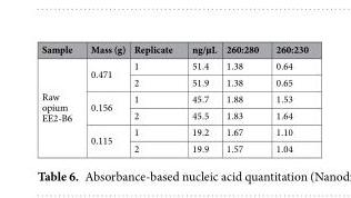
<table><thead><tr><td>Sample</td><td>Mass (g)</td><td>Replicate</td><td>ng/µL</td><td>260:280</td><td>260:230</td></tr></thead><tbody><tr><td rowspan="6">Raw opium EE2-B6</td><td rowspan="2">0.471</td><td>1</td><td>51.4</td><td>1.38</td><td>0.64</td></tr><tr><td>2</td><td>51.9</td><td>1.38</td><td>0.65</td></tr><tr><td rowspan="2">0.156</td><td>1</td><td>45.7</td><td>1.88</td><td>1.53</td></tr><tr><td>2</td><td>45.5</td><td>1.83</td><td>1.64</td></tr><tr><td rowspan="2">0.115</td><td>1</td><td>19.2</td><td>1.67</td><td>1.10</td></tr><tr><td>2</td><td>19.9</td><td>1.57</td><td>1.04</td></tr></tbody></table>